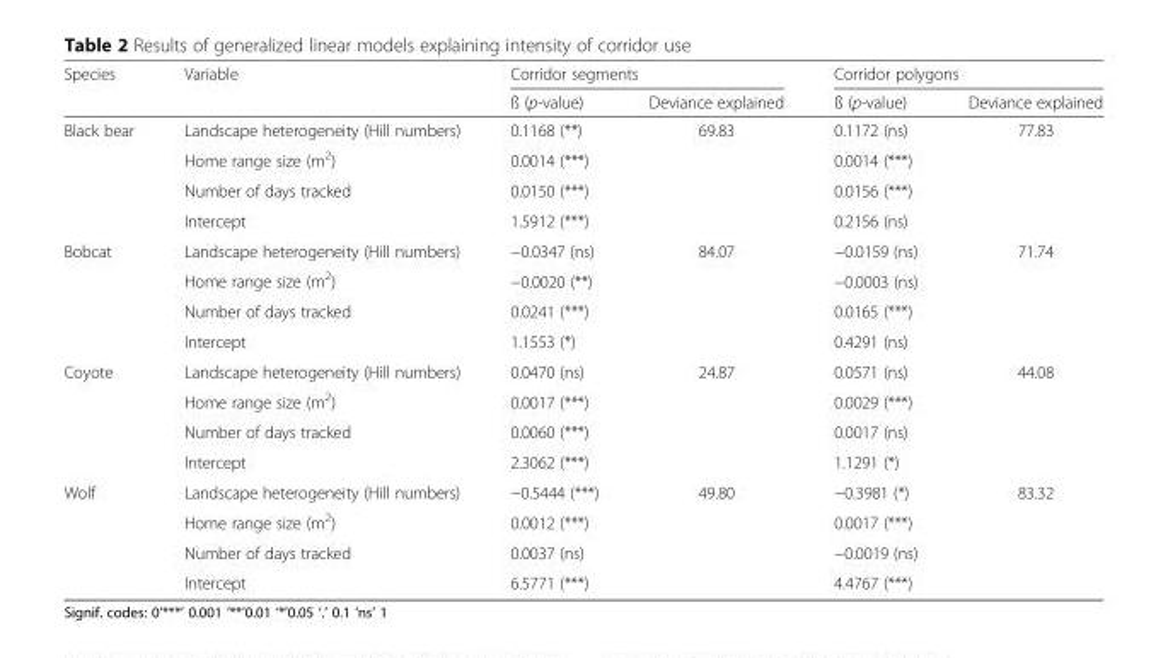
<table><thead><tr><td rowspan="2">Species</td><td rowspan="2">Variable</td><td colspan="2">Corridor segments</td><td colspan="2">Corridor polygons</td></tr><tr><td>ß (p-value)</td><td>Deviance explained</td><td>ß (p-value)</td><td>Deviance explained</td></tr></thead><tbody><tr><td rowspan="4">Black bear</td><td>Landscape heterogeneity (Hill numbers)</td><td>0.1168 (**)</td><td>69.83</td><td>0.1172 (ns)</td><td>77.83</td></tr><tr><td>Home range size (m<sup>2</sup>)</td><td>0.0014 (***)</td><td></td><td>0.0014 (***)</td><td></td></tr><tr><td>Number of days tracked</td><td>0.0150 (***)</td><td></td><td>0.0156 (***)</td><td></td></tr><tr><td>Intercept</td><td>1.5912 (***)</td><td></td><td>0.2156 (ns)</td><td></td></tr><tr><td rowspan="4">Bobcat</td><td>Landscape heterogeneity (Hill numbers)</td><td>−0.0347 (ns)</td><td>84.07</td><td>−0.0159 (ns)</td><td>71.74</td></tr><tr><td>Home range size (m<sup>2</sup>)</td><td>−0.0020 (**)</td><td></td><td>−0.0003 (ns)</td><td></td></tr><tr><td>Number of days tracked</td><td>0.0241 (***)</td><td></td><td>0.0165 (***)</td><td></td></tr><tr><td>Intercept</td><td>1.1553 (*)</td><td></td><td>0.4291 (ns)</td><td></td></tr><tr><td rowspan="4">Coyote</td><td>Landscape heterogeneity (Hill numbers)</td><td>0.0470 (ns)</td><td>24.87</td><td>0.0571 (ns)</td><td>44.08</td></tr><tr><td>Home range size (m<sup>2</sup>)</td><td>0.0017 (***)</td><td></td><td>0.0029 (***)</td><td></td></tr><tr><td>Number of days tracked</td><td>0.0060 (***)</td><td></td><td>0.0017 (ns)</td><td></td></tr><tr><td>Intercept</td><td>2.3062 (***)</td><td></td><td>1.1291 (*)</td><td></td></tr><tr><td rowspan="4">Wolf</td><td>Landscape heterogeneity (Hill numbers)</td><td>−0.5444 (***)</td><td>49.80</td><td>−0.3981 (*)</td><td>83.32</td></tr><tr><td>Home range size (m<sup>2</sup>)</td><td>0.0012 (***)</td><td></td><td>0.0017 (***)</td><td></td></tr><tr><td>Number of days tracked</td><td>0.0037 (ns)</td><td></td><td>−0.0019 (ns)</td><td></td></tr><tr><td>Intercept</td><td>6.5771 (***)</td><td></td><td>4.4767 (***)</td><td></td></tr></tbody></table>